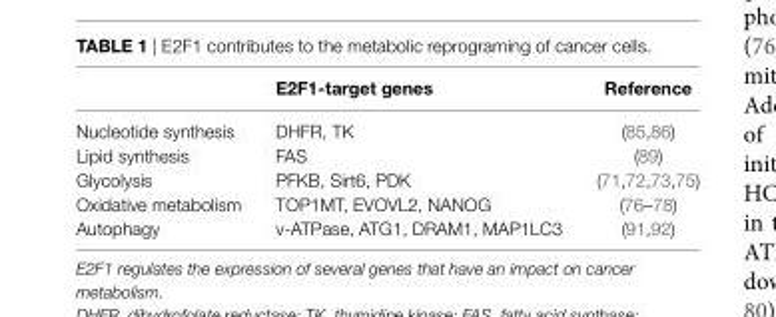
<table><thead><tr><td></td><td>e2F1-target genes</td><td>Reference</td></tr></thead><tbody><tr><td>Nucleotide synthesis</td><td>DHFR, TK</td><td>(85,86)</td></tr><tr><td>Lipid synthesis</td><td>FAS</td><td>(89)</td></tr><tr><td>Glycolysis</td><td>PFKB, Sirt6, PDK</td><td>(71,72,73,75)</td></tr><tr><td>Oxidative metabolism</td><td>TOP1MT, EVOVL2, NANOG</td><td>(76–78)</td></tr><tr><td>Autophagy</td><td>v-ATPase, ATG1, DRAM1, MAP1LC3</td><td>(91,92)</td></tr></tbody></table>